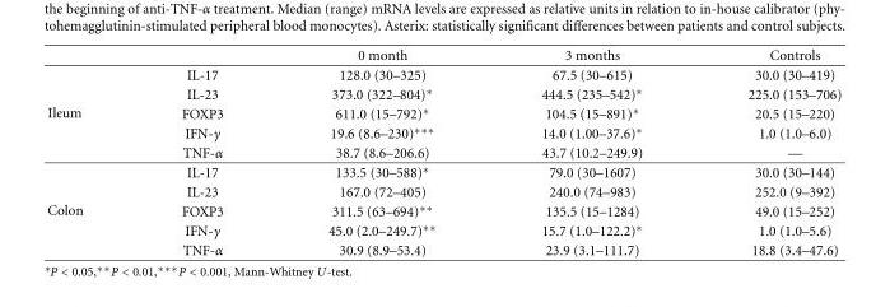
<table><thead><tr><td></td><td></td><td>0 month</td><td>3 months</td><td>Controls</td></tr></thead><tbody><tr><td rowspan="5">Ileum</td><td>IL-17</td><td>128.0 (30–325)</td><td>67.5 (30–615)</td><td>30.0 (30–419)</td></tr><tr><td>IL-23</td><td>373.0 (322–804)∗</td><td>444.5 (235–542)∗</td><td>225.0 (153–706)</td></tr><tr><td>FOXP3</td><td>611.0 (15–792)∗</td><td>104.5 (15–891)∗</td><td>20.5 (15–220)</td></tr><tr><td>IFN-γ</td><td>19.6 (8.6–230)∗∗∗</td><td>14.0 (1.00–37.6)∗</td><td>1.0 (1.0–6.0)</td></tr><tr><td>TNF-α</td><td>38.7 (8.6–206.6)</td><td>43.7 (10.2–249.9)</td><td>—</td></tr><tr><td rowspan="5">Colon</td><td>IL-17</td><td>133.5 (30–588)∗</td><td>79.0 (30–1607)</td><td>30.0 (30–144)</td></tr><tr><td>IL-23</td><td>167.0 (72–405)</td><td>240.0 (74–983)</td><td>252.0 (9–392)</td></tr><tr><td>FOXP3</td><td>311.5 (63–694)∗∗</td><td>135.5 (15–1284)</td><td>49.0 (15–252)</td></tr><tr><td>IFN-γ</td><td>45.0 (2.0–249.7)∗∗</td><td>15.7 (1.0–122.2)∗</td><td>1.0 (1.0–5.6)</td></tr><tr><td>TNF-α</td><td>30.9 (8.9–53.4)</td><td>23.9 (3.1–111.7)</td><td>18.8 (3.4–47.6)</td></tr></tbody></table>